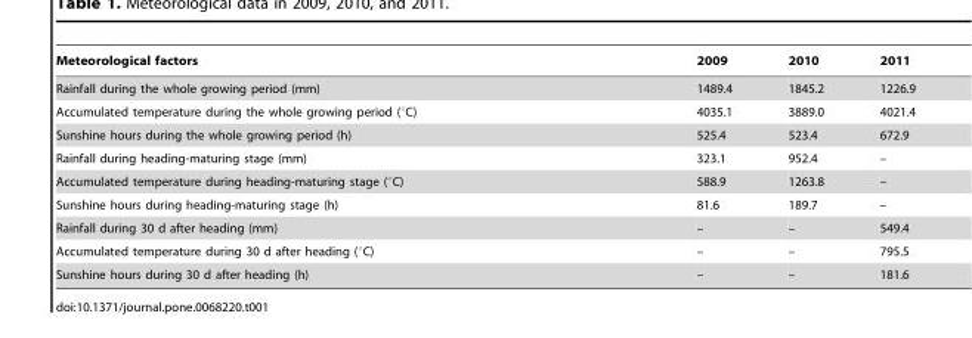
<table><thead><tr><td>Meteorological factors</td><td>2009</td><td>2010</td><td>2011</td></tr></thead><tbody><tr><td>Rainfall during the whole growing period (mm)</td><td>1489.4</td><td>1845.2</td><td>1226.9</td></tr><tr><td>Accumulated temperature during the whole growing period (°C)</td><td>4035.1</td><td>3889.0</td><td>4021.4</td></tr><tr><td>Sunshine hours during the whole growing period (h)</td><td>525.4</td><td>523.4</td><td>672.9</td></tr><tr><td>Rainfall during heading-maturing stage (mm)</td><td>323.1</td><td>952.4</td><td>–</td></tr><tr><td>Accumulated temperature during heading-maturing stage (°C)</td><td>588.9</td><td>1263.8</td><td>–</td></tr><tr><td>Sunshine hours during heading-maturing stage (h)</td><td>81.6</td><td>189.7</td><td>–</td></tr><tr><td>Rainfall during 30 d after heading (mm)</td><td>–</td><td>–</td><td>549.4</td></tr><tr><td>Accumulated temperature during 30 d after heading (°C)</td><td>–</td><td>–</td><td>795.5</td></tr><tr><td>Sunshine hours during 30 d after heading (h)</td><td>–</td><td>–</td><td>181.6</td></tr></tbody></table>